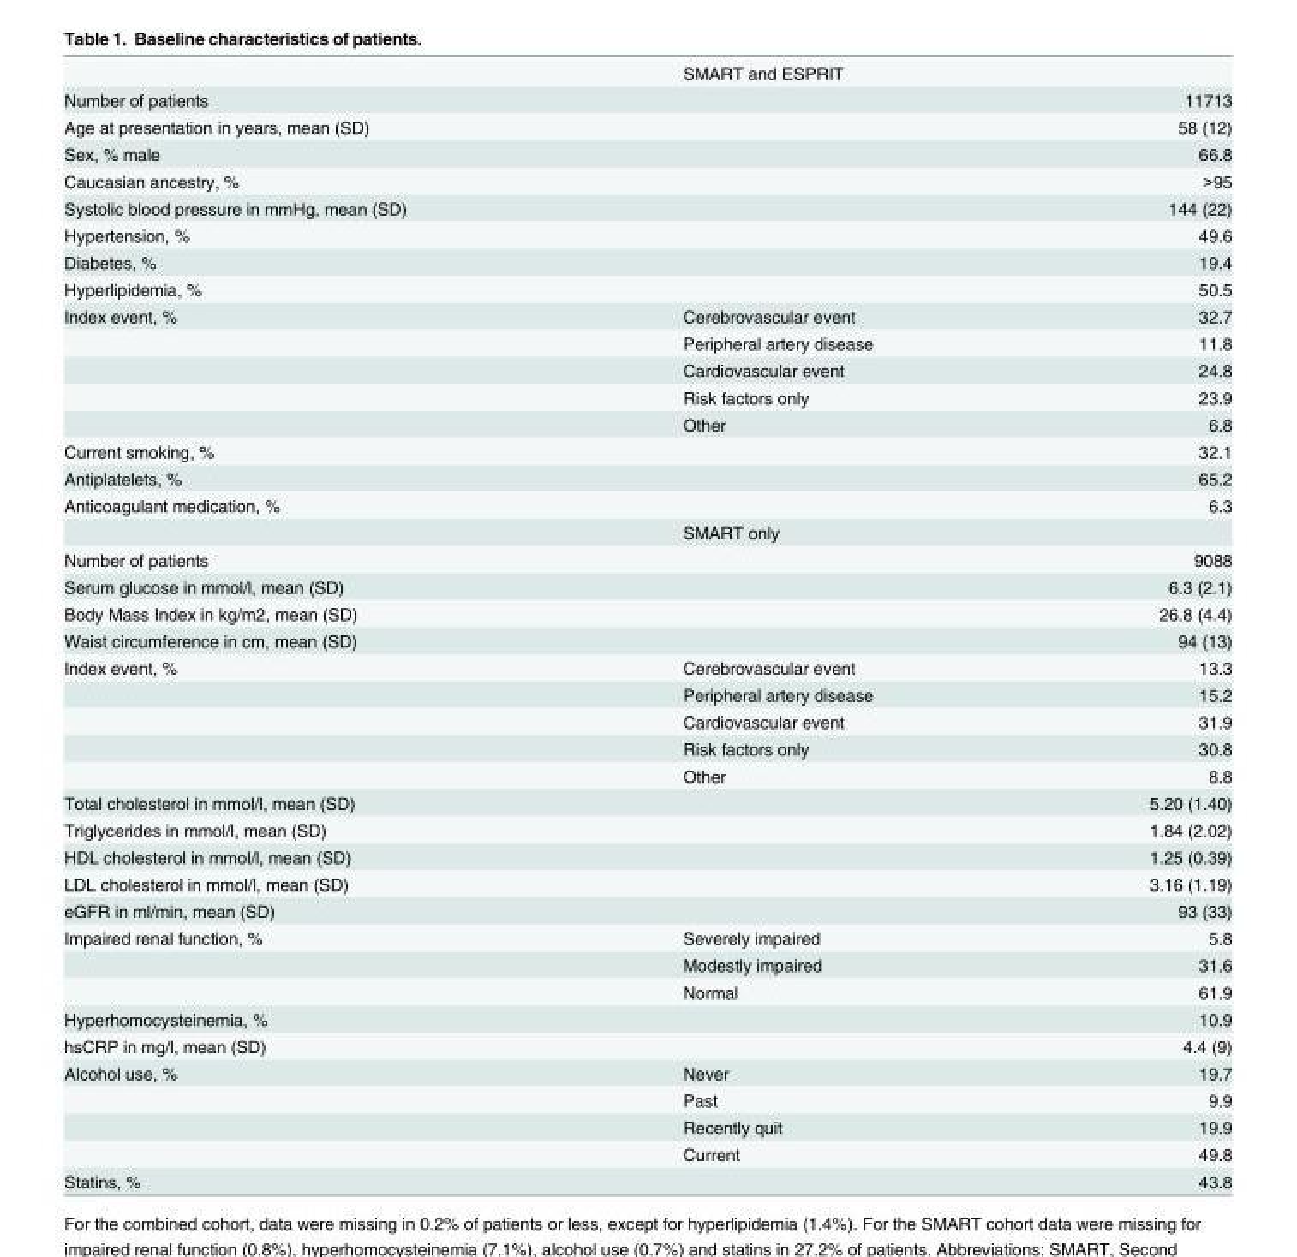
<table><thead><tr><td></td><td>SMART and ESPRIT</td><td></td></tr></thead><tbody><tr><td>Number of patients</td><td></td><td>11713</td></tr><tr><td>Age at presentation in years, mean (SD)</td><td></td><td>58 (12)</td></tr><tr><td>Sex, % male</td><td></td><td>66.8</td></tr><tr><td>Caucasian ancestry, %</td><td></td><td>&gt;95</td></tr><tr><td>Systolic blood pressure in mmHg, mean (SD)</td><td></td><td>144 (22)</td></tr><tr><td>Hypertension, %</td><td></td><td>49.6</td></tr><tr><td>Diabetes, %</td><td></td><td>19.4</td></tr><tr><td>Hyperlipidemia, %</td><td></td><td>50.5</td></tr><tr><td rowspan="5">Index event, %</td><td>Cerebrovascular event</td><td>32.7</td></tr><tr><td>Peripheral artery disease</td><td>11.8</td></tr><tr><td>Cardiovascular event</td><td>24.8</td></tr><tr><td>Risk factors only</td><td>23.9</td></tr><tr><td>Other</td><td>6.8</td></tr><tr><td>Current smoking, %</td><td></td><td>32.1</td></tr><tr><td>Antiplatelets, %</td><td></td><td>65.2</td></tr><tr><td rowspan="2">Anticoagulant medication, %</td><td></td><td>6.3</td></tr><tr><td>SMART only</td><td></td></tr><tr><td>Number of patients</td><td></td><td>9088</td></tr><tr><td>Serum glucose in mmol/l, mean (SD)</td><td></td><td>6.3 (2.1)</td></tr><tr><td>Body Mass Index in kg/m2, mean (SD)</td><td></td><td>26.8 (4.4)</td></tr><tr><td>Waist circumference in cm, mean (SD)</td><td></td><td>94 (13)</td></tr><tr><td rowspan="5">Index event, %</td><td>Cerebrovascular event</td><td>13.3</td></tr><tr><td>Peripheral artery disease</td><td>15.2</td></tr><tr><td>Cardiovascular event</td><td>31.9</td></tr><tr><td>Risk factors only</td><td>30.8</td></tr><tr><td>Other</td><td>8.8</td></tr><tr><td>Total cholesterol in mmol/l, mean (SD)</td><td></td><td>5.20 (1.40)</td></tr><tr><td>Triglycerides in mmol/l, mean (SD)</td><td></td><td>1.84 (2.02)</td></tr><tr><td>HDL cholesterol in mmol/l, mean (SD)</td><td></td><td>1.25 (0.39)</td></tr><tr><td>LDL cholesterol in mmol/l, mean (SD)</td><td></td><td>3.16 (1.19)</td></tr><tr><td>eGFR in ml/min, mean (SD)</td><td></td><td>93 (33)</td></tr><tr><td rowspan="3">Impaired renal function, %</td><td>Severely impaired</td><td>5.8</td></tr><tr><td>Modestly impaired</td><td>31.6</td></tr><tr><td>Normal</td><td>61.9</td></tr><tr><td>Hyperhomocysteinemia, %</td><td></td><td>10.9</td></tr><tr><td>hsCRP in mg/l, mean (SD)</td><td></td><td>4.4 (9)</td></tr><tr><td rowspan="4">Alcohol use, %</td><td>Never</td><td>19.7</td></tr><tr><td>Past</td><td>9.9</td></tr><tr><td>Recently quit</td><td>19.9</td></tr><tr><td>Current</td><td>49.8</td></tr><tr><td>Statins, %</td><td></td><td>43.8</td></tr></tbody></table>